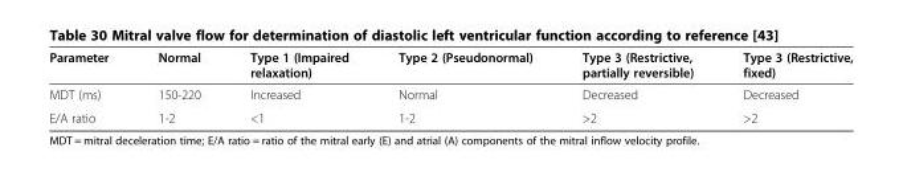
<table><thead><tr><td>Parameter</td><td>Normal</td><td>Type 1 (Impaired relaxation)</td><td>Type 2 (Pseudonormal)</td><td>Type 3 (Restrictive, partially reversible)</td><td>Type 3 (Restrictive, fixed)</td></tr></thead><tbody><tr><td>MDT (ms)</td><td>150-220</td><td>Increased</td><td>Normal</td><td>Decreased</td><td>Decreased</td></tr><tr><td>E/A ratio</td><td>1-2</td><td>&lt;1</td><td>1-2</td><td>&gt;2</td><td>&gt;2</td></tr></tbody></table>